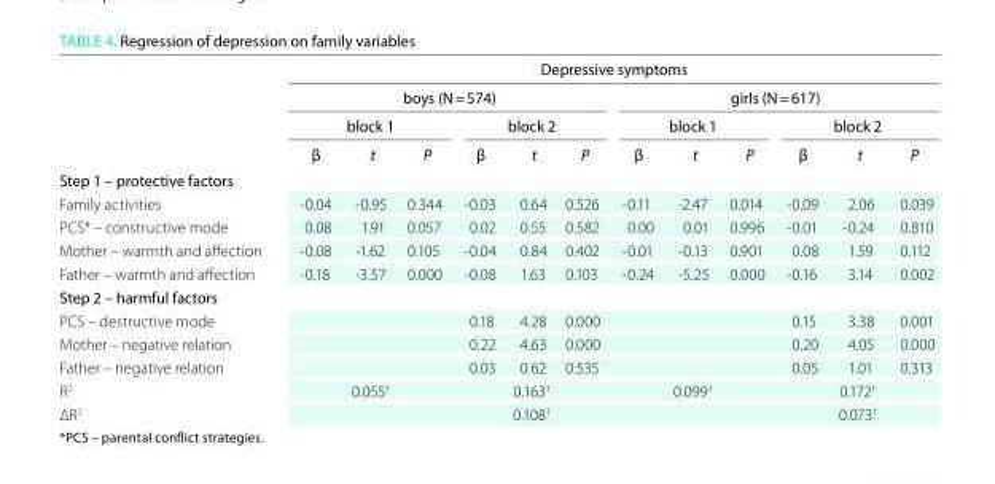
<table><thead><tr><td rowspan="4"></td><td colspan="12">depressive symptoms</td></tr><tr><td colspan="6">boys (N = 574)</td><td colspan="6">girls (N = 617)</td></tr><tr><td colspan="3">block 1</td><td colspan="3">block 2</td><td colspan="3">block 1</td><td colspan="3">block 2</td></tr><tr><td>β</td><td>t</td><td>P</td><td>β</td><td>t</td><td>P</td><td>β</td><td>t</td><td>P</td><td>β</td><td>t</td><td>P</td></tr></thead><tbody><tr><td colspan="13">Step 1 – protective factors</td></tr><tr><td>Family activities</td><td>-0.04</td><td>-0.95</td><td>0.344</td><td>-0.03</td><td>0.64</td><td>0.526</td><td>-0.11</td><td>-2.47</td><td>0.014</td><td>-0.09</td><td>2.06</td><td>0.039</td></tr><tr><td>PCS* – constructive mode</td><td>0.08</td><td>1.91</td><td>0.057</td><td>0.02</td><td>0.55</td><td>0.582</td><td>0.00</td><td>0.01</td><td>0.996</td><td>-0.01</td><td>-0.24</td><td>0.810</td></tr><tr><td>Mother – warmth and affection</td><td>-0.08</td><td>-1.62</td><td>0.105</td><td>-0.04</td><td>0.84</td><td>0.402</td><td>-0.01</td><td>-0.13</td><td>0.901</td><td>0.08</td><td>1.59</td><td>0.112</td></tr><tr><td>Father – warmth and affection</td><td>-0.18</td><td>-3.57</td><td>0.000</td><td>-0.08</td><td>1.63</td><td>0.103</td><td>-0.24</td><td>-5.25</td><td>0.000</td><td>-0.16</td><td>3.14</td><td>0.002</td></tr><tr><td colspan="13">Step 2 – harmful factors</td></tr><tr><td>PCS – destructive mode</td><td></td><td></td><td></td><td>0.18</td><td>4.28</td><td>0.000</td><td></td><td></td><td></td><td>0.15</td><td>3.38</td><td>0.001</td></tr><tr><td>Mother – negative relation</td><td></td><td></td><td></td><td>0.22</td><td>4.63</td><td>0.000</td><td></td><td></td><td></td><td>0.20</td><td>4.05</td><td>0.000</td></tr><tr><td>Father – negative relation</td><td></td><td></td><td></td><td>0.03</td><td>0.62</td><td>0.535</td><td></td><td></td><td></td><td>0.05</td><td>1.01</td><td>0.313</td></tr><tr><td>R<sup>2</sup></td><td colspan="3">0.055<sup>†</sup></td><td colspan="3">0.163<sup>†</sup></td><td colspan="3">0.099<sup>†</sup></td><td colspan="3">0.172<sup>†</sup></td></tr><tr><td>ΔR<sup>2</sup></td><td colspan="3"></td><td colspan="3">0.108<sup>†</sup></td><td colspan="3"></td><td colspan="3">0.073<sup>†</sup></td></tr></tbody></table>